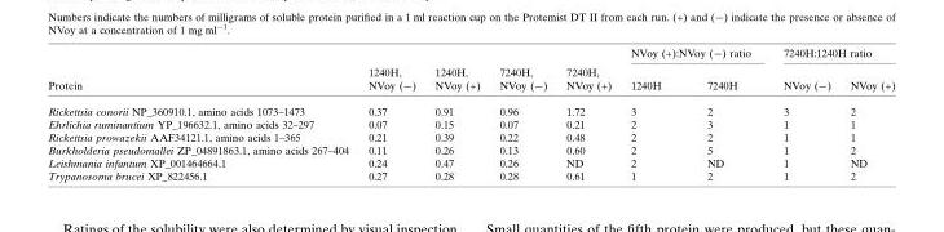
<table><thead><tr><td rowspan="2">Protein</td><td rowspan="2">1240H, NVoy (−)</td><td rowspan="2">1240H, NVoy (+)</td><td rowspan="2">7240H, NVoy (−)</td><td rowspan="2">7240H, NVoy (+)</td><td colspan="2">NVoy (+):NVoy (−) ratio</td><td colspan="2">7240H:1240H ratio</td></tr><tr><td>1240H</td><td>7240H</td><td>NVoy (−)</td><td>NVoy (+)</td></tr></thead><tbody><tr><td>Rickettsia conorii NP_360910.1, amino acids 1073–1473</td><td>0.37</td><td>0.91</td><td>0.96</td><td>1.72</td><td>3</td><td>2</td><td>3</td><td>2</td></tr><tr><td>Ehrlichia ruminantium YP_196632.1, amino acids 32–297</td><td>0.07</td><td>0.15</td><td>0.07</td><td>0.21</td><td>2</td><td>3</td><td>1</td><td>1</td></tr><tr><td>Rickettsia prowazekii AAF34121.1, amino acids 1–365</td><td>0.21</td><td>0.39</td><td>0.22</td><td>0.48</td><td>2</td><td>2</td><td>1</td><td>1</td></tr><tr><td>Burkholderia pseudomallei ZP_04891863.1, amino acids 267–404</td><td>0.11</td><td>0.26</td><td>0.13</td><td>0.60</td><td>2</td><td>5</td><td>1</td><td>2</td></tr><tr><td>Leishmania infantum XP_001464664.1</td><td>0.24</td><td>0.47</td><td>0.26</td><td>ND</td><td>2</td><td>ND</td><td>1</td><td>ND</td></tr><tr><td>Trypanosoma brucei XP_822456.1</td><td>0.27</td><td>0.28</td><td>0.28</td><td>0.61</td><td>1</td><td>2</td><td>1</td><td>2</td></tr></tbody></table>